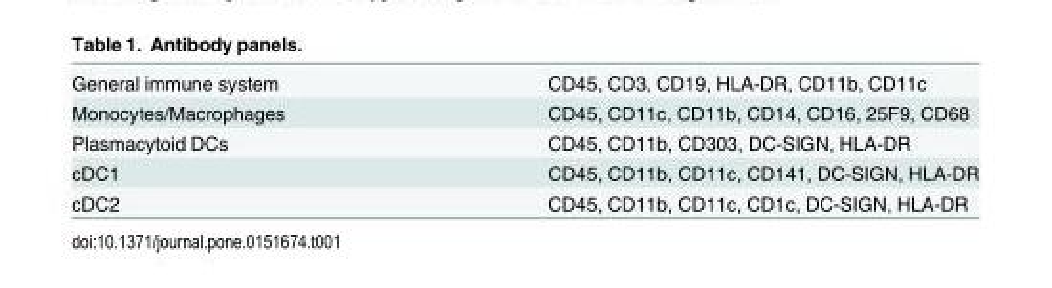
<table><tbody><tr><td>General immune system</td><td>CD45, CD3, CD19, HLA-DR, CD11b, CD11c</td></tr><tr><td>Monocytes/Macrophages</td><td>CD45, CD11c, CD11b, CD14, CD16, 25F9, CD68</td></tr><tr><td>Plasmacytoid DCs</td><td>CD45, CD11b, CD303, DC-SIGN, HLA-DR</td></tr><tr><td>cDC1</td><td>CD45, CD11b, CD11c, CD141, DC-SIGN, HLA-DR</td></tr><tr><td>cDC2</td><td>CD45, CD11b, CD11c, CD1c, DC-SIGN, HLA-DR</td></tr></tbody></table>